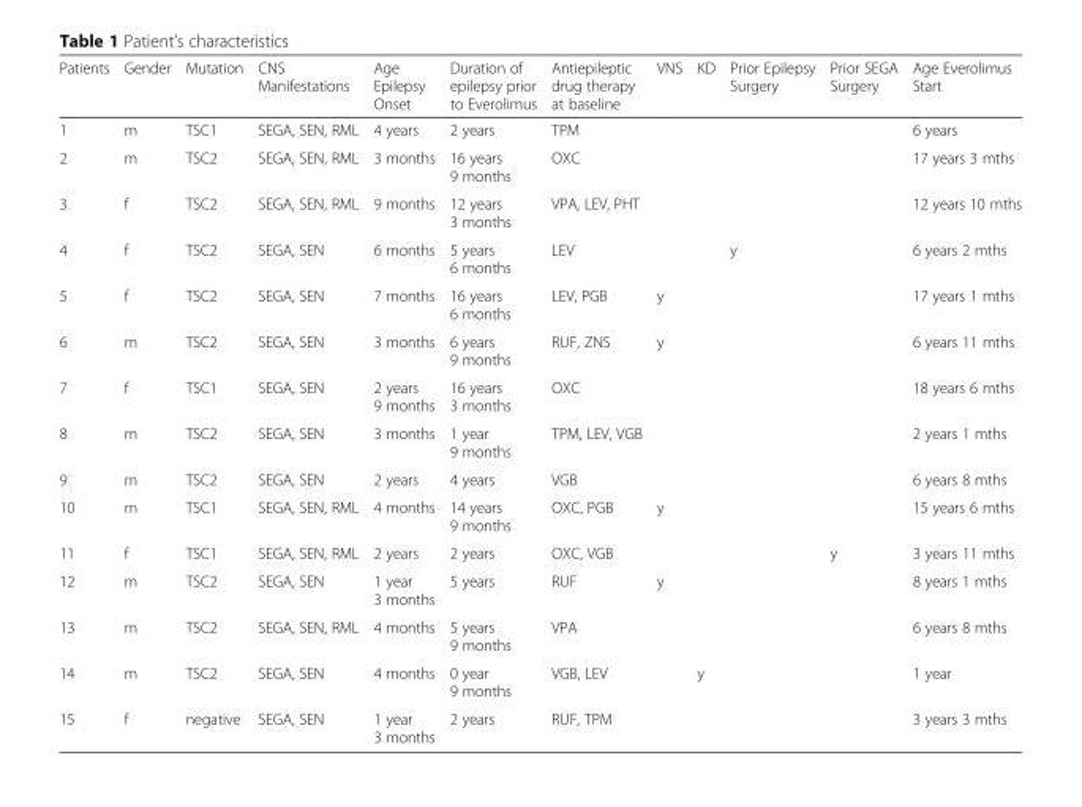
<table><thead><tr><td>Patients</td><td>Gender</td><td>Mutation</td><td>CNS Manifestations</td><td>Age Epilepsy Onset</td><td>Duration of epilepsy prior to Everolimus</td><td>Antiepileptic drug therapy at baseline</td><td>VNS</td><td>KD</td><td>Prior Epilepsy Surgery</td><td>Prior SEGA Surgery</td><td>Age Everolimus Start</td></tr></thead><tbody><tr><td>1</td><td>m</td><td>TSC1</td><td>SEGA, SEN, RML</td><td>4 years</td><td>2 years</td><td>TPM</td><td></td><td></td><td></td><td></td><td>6 years</td></tr><tr><td>2</td><td>m</td><td>TSC2</td><td>SEGA, SEN, RML</td><td>3 months</td><td>16 years 9 months</td><td>OXC</td><td></td><td></td><td></td><td></td><td>17 years 3 mths</td></tr><tr><td>3</td><td>f</td><td>TSC2</td><td>SEGA, SEN, RML</td><td>9 months</td><td>12 years 3 months</td><td>VPA, LEV, PHT</td><td></td><td></td><td></td><td></td><td>12 years 10 mths</td></tr><tr><td>4</td><td>f</td><td>TSC2</td><td>SEGA, SEN</td><td>6 months</td><td>5 years 6 months</td><td>LEV</td><td></td><td></td><td>y</td><td></td><td>6 years 2 mths</td></tr><tr><td>5</td><td>f</td><td>TSC2</td><td>SEGA, SEN</td><td>7 months</td><td>16 years 6 months</td><td>LEV, PGB</td><td>y</td><td></td><td></td><td></td><td>17 years 1 mths</td></tr><tr><td>6</td><td>m</td><td>TSC2</td><td>SEGA, SEN</td><td>3 months</td><td>6 years 9 months</td><td>RUF, ZNS</td><td>y</td><td></td><td></td><td></td><td>6 years 11 mths</td></tr><tr><td>7</td><td>f</td><td>TSC1</td><td>SEGA, SEN</td><td>2 years 9 months</td><td>16 years 3 months</td><td>OXC</td><td></td><td></td><td></td><td></td><td>18 years 6 mths</td></tr><tr><td>8</td><td>m</td><td>TSC2</td><td>SEGA, SEN</td><td>3 months</td><td>1 year 9 months</td><td>TPM, LEV, VGB</td><td></td><td></td><td></td><td></td><td>2 years 1 mths</td></tr><tr><td>9</td><td>m</td><td>TSC2</td><td>SEGA, SEN</td><td>2 years</td><td>4 years</td><td>VGB</td><td></td><td></td><td></td><td></td><td>6 years 8 mths</td></tr><tr><td>10</td><td>m</td><td>TSC1</td><td>SEGA, SEN, RML</td><td>4 months</td><td>14 years 9 months</td><td>OXC, PGB</td><td>y</td><td></td><td></td><td></td><td>15 years 6 mths</td></tr><tr><td>11</td><td>f</td><td>TSC1</td><td>SEGA, SEN, RML</td><td>2 years</td><td>2 years</td><td>OXC, VGB</td><td></td><td></td><td></td><td>y</td><td>3 years 11 mths</td></tr><tr><td>12</td><td>m</td><td>TSC2</td><td>SEGA, SEN</td><td>1 year 3 months</td><td>5 years</td><td>RUF</td><td>y</td><td></td><td></td><td></td><td>8 years 1 mths</td></tr><tr><td>13</td><td>m</td><td>TSC2</td><td>SEGA, SEN, RML</td><td>4 months</td><td>5 years 9 months</td><td>VPA</td><td></td><td></td><td></td><td></td><td>6 years 8 mths</td></tr><tr><td>14</td><td>m</td><td>TSC2</td><td>SEGA, SEN</td><td>4 months</td><td>0 year 9 months</td><td>VGB, LEV</td><td></td><td>y</td><td></td><td></td><td>1 year</td></tr><tr><td>15</td><td>f</td><td>negative</td><td>SEGA, SEN</td><td>1 year 3 months</td><td>2 years</td><td>RUF, TPM</td><td></td><td></td><td></td><td></td><td>3 years 3 mths</td></tr></tbody></table>